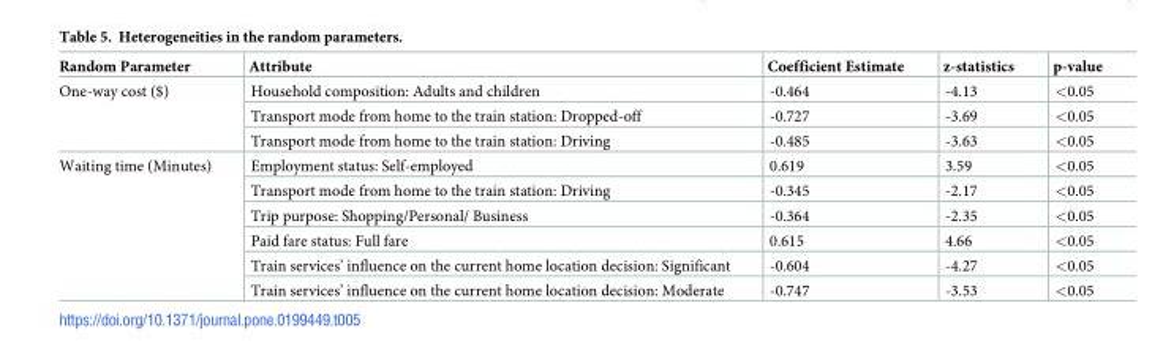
<table><thead><tr><td>Random Parameter</td><td>Attribute</td><td>Coefficient Estimate</td><td>z-statistics</td><td>p-value</td></tr></thead><tbody><tr><td rowspan="3">One-way cost ($)</td><td>Household composition: Adults and children</td><td>-0.464</td><td>-4.13</td><td>&lt;0.05</td></tr><tr><td>Transport mode from home to the train station: Dropped-off</td><td>-0.727</td><td>-3.69</td><td>&lt;0.05</td></tr><tr><td>Transport mode from home to the train station: Driving</td><td>-0.485</td><td>-3.63</td><td>&lt;0.05</td></tr><tr><td rowspan="6">Waiting time (Minutes)</td><td>Employment status: Self-employed</td><td>0.619</td><td>3.59</td><td>&lt;0.05</td></tr><tr><td>Transport mode from home to the train station: Driving</td><td>-0.345</td><td>-2.17</td><td>&lt;0.05</td></tr><tr><td>Trip purpose: Shopping/Personal/ Business</td><td>-0.364</td><td>-2.35</td><td>&lt;0.05</td></tr><tr><td>Paid fare status: Full fare</td><td>0.615</td><td>4.66</td><td>&lt;0.05</td></tr><tr><td>Train services’ influence on the current home location decision: Significant</td><td>-0.604</td><td>-4.27</td><td>&lt;0.05</td></tr><tr><td>Train services’ influence on the current home location decision: Moderate</td><td>-0.747</td><td>-3.53</td><td>&lt;0.05</td></tr></tbody></table>